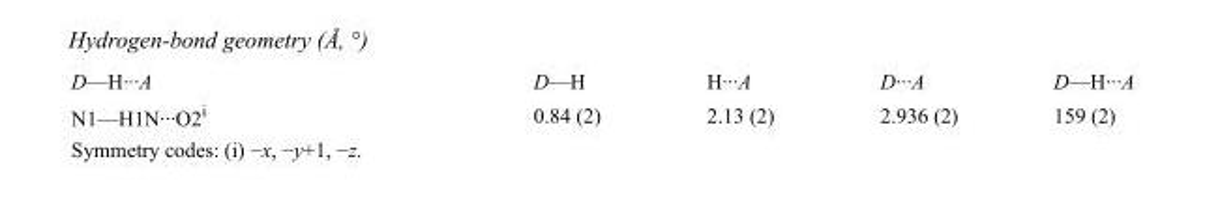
<table><tbody><tr><td>D—H···A</td><td>D—H</td><td>H···A</td><td>D···A</td><td>D—H···A</td></tr><tr><td>N1—H1N···O2<sup>i</sup></td><td>0.84 (2)</td><td>2.13 (2)</td><td>2.936 (2)</td><td>159 (2)</td></tr></tbody></table>